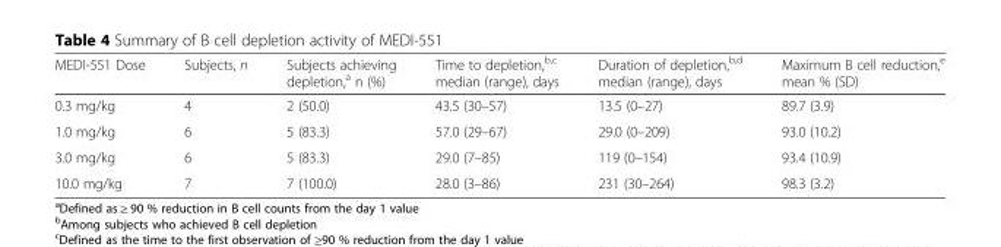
<table><thead><tr><td>MEDI-551 Dose</td><td>Subjects, n</td><td>Subjects achieving depletion,<sup>a</sup> n (%)</td><td>Time to depletion,<sup>b,c</sup> median (range), days</td><td>Duration of depletion,<sup>b,d</sup> median (range), days</td><td>Maximum B cell reduction,<sup>e</sup> mean % (SD)</td></tr></thead><tbody><tr><td>0.3 mg/kg</td><td>4</td><td>2 (50.0)</td><td>43.5 (30–57)</td><td>13.5 (0–27)</td><td>89.7 (3.9)</td></tr><tr><td>1.0 mg/kg</td><td>6</td><td>5 (83.3)</td><td>57.0 (29–67)</td><td>29.0 (0–209)</td><td>93.0 (10.2)</td></tr><tr><td>3.0 mg/kg</td><td>6</td><td>5 (83.3)</td><td>29.0 (7–85)</td><td>119 (0–154)</td><td>93.4 (10.9)</td></tr><tr><td>10.0 mg/kg</td><td>7</td><td>7 (100.0)</td><td>28.0 (3–86)</td><td>231 (30–264)</td><td>98.3 (3.2)</td></tr></tbody></table>